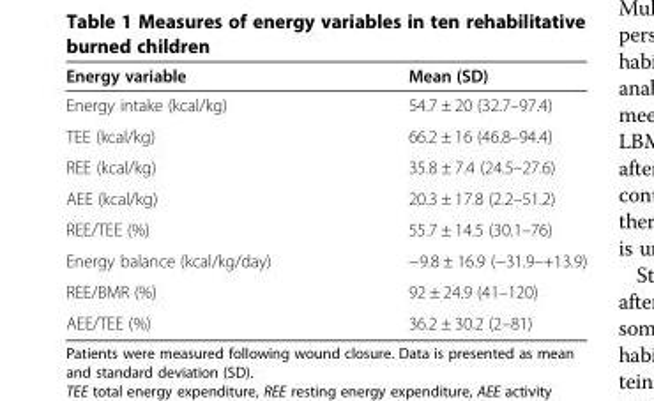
<table><thead><tr><td>Energy variable</td><td>Mean (SD)</td></tr></thead><tbody><tr><td>Energy intake (kcal/kg)</td><td>54.7 ± 20 (32.7–97.4)</td></tr><tr><td>TEE (kcal/kg)</td><td>66.2 ± 16 (46.8–94.4)</td></tr><tr><td>REE (kcal/kg)</td><td>35.8 ± 7.4 (24.5–27.6)</td></tr><tr><td>AEE (kcal/kg)</td><td>20.3 ± 17.8 (2.2–51.2)</td></tr><tr><td>REE/TEE (%)</td><td>55.7 ± 14.5 (30.1–76)</td></tr><tr><td>Energy balance (kcal/kg/day)</td><td>−9.8 ± 16.9 (−31.9–+13.9)</td></tr><tr><td>REE/BMR (%)</td><td>92 ± 24.9 (41–120)</td></tr><tr><td>AEE/TEE (%)</td><td>36.2 ± 30.2 (2–81)</td></tr></tbody></table>